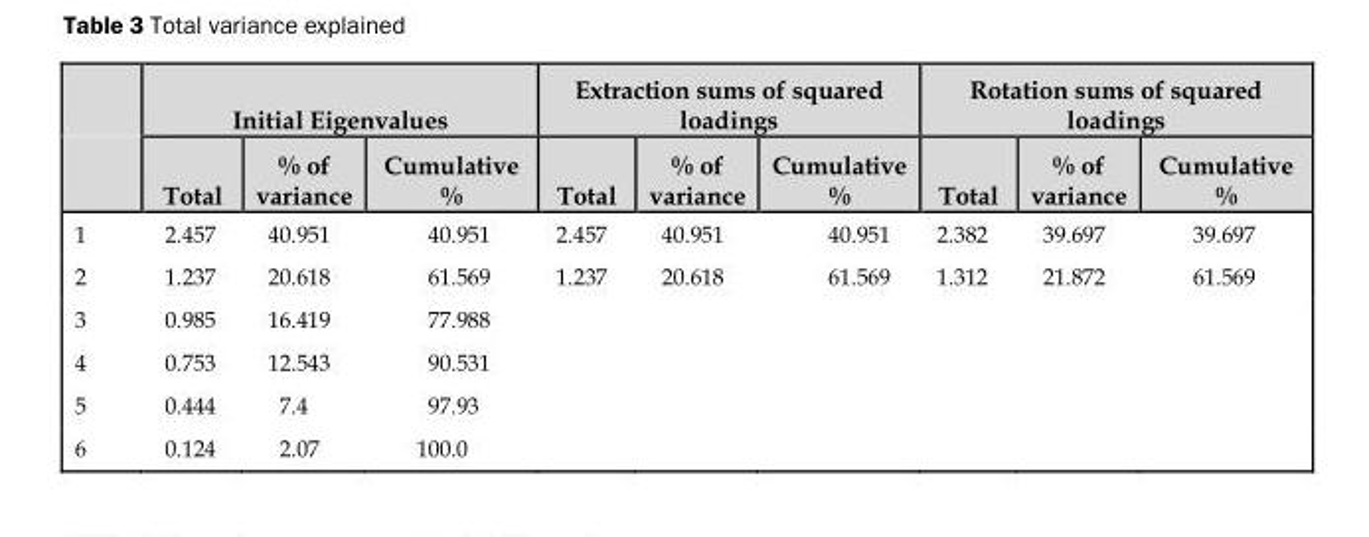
<table><thead><tr><td rowspan="2"></td><td colspan="3">Initial Eigenvalues</td><td colspan="3">Extraction sums of squared loadings</td><td colspan="3">Rotation sums of squared loadings</td></tr><tr><td>Total</td><td>% of variance</td><td>Cumulative %</td><td>Total</td><td>% of variance</td><td>Cumulative %</td><td>Total</td><td>% of variance</td><td>Cumulative %</td></tr></thead><tbody><tr><td>1</td><td>2.457</td><td>40.951</td><td>40.951</td><td>2.457</td><td>40.951</td><td>40.951</td><td>2.382</td><td>39.697</td><td>39.697</td></tr><tr><td>2</td><td>1.237</td><td>20.618</td><td>61.569</td><td>1.237</td><td>20.618</td><td>61.569</td><td>1.312</td><td>21.872</td><td>61.569</td></tr><tr><td>3</td><td>0.985</td><td>16.419</td><td>77.988</td><td></td><td></td><td></td><td></td><td></td><td></td></tr><tr><td>4</td><td>0.753</td><td>12.543</td><td>90.531</td><td></td><td></td><td></td><td></td><td></td><td></td></tr><tr><td>5</td><td>0.444</td><td>7.4</td><td>97.93</td><td></td><td></td><td></td><td></td><td></td><td></td></tr><tr><td>6</td><td>0.124</td><td>2.07</td><td>100.0</td><td></td><td></td><td></td><td></td><td></td><td></td></tr></tbody></table>